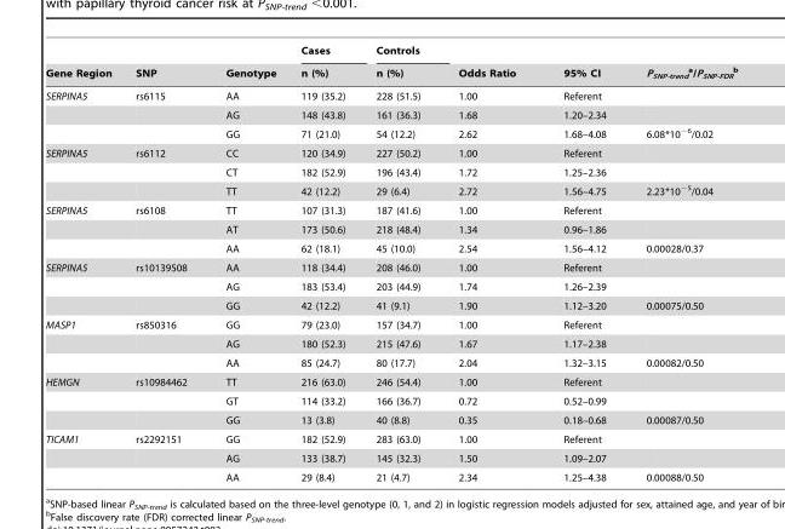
<table><thead><tr><td rowspan="2">Gene Region</td><td rowspan="2">SNP</td><td rowspan="2">Genotype</td><td rowspan="2">Cases n (%)</td><td rowspan="2">Controls n (%)</td><td rowspan="2">Odds Ratio</td><td rowspan="2">95% CI</td><td rowspan="2">P<sub>SNP-trend</sub> a/P<sub>SNP-FDR</sub> b</td></tr><tr></tr></thead><tbody><tr><td rowspan="3">SERPINA5</td><td>rs6115</td><td>AA</td><td>119 (35.2)</td><td>228 (51.5)</td><td>1.00</td><td>Referent</td><td></td></tr><tr><td></td><td>AG</td><td>148 (43.8)</td><td>161 (36.3)</td><td>1.68</td><td>1.20–2.34</td><td></td></tr><tr><td></td><td>GG</td><td>71 (21.0)</td><td>54 (12.2)</td><td>2.62</td><td>1.68–4.08</td><td>6.08*10<sup>−6</sup>/0.02</td></tr><tr><td rowspan="3">SERPINA5</td><td>rs6112</td><td>CC</td><td>120 (34.9)</td><td>227 (50.2)</td><td>1.00</td><td>Referent</td><td></td></tr><tr><td></td><td>CT</td><td>182 (52.9)</td><td>196 (43.4)</td><td>1.72</td><td>1.25–2.36</td><td></td></tr><tr><td></td><td>TT</td><td>42 (12.2)</td><td>29 (6.4)</td><td>2.72</td><td>1.56–4.75</td><td>2.23*10<sup>−5</sup>/0.04</td></tr><tr><td rowspan="3">SERPINA5</td><td>rs6108</td><td>TT</td><td>107 (31.3)</td><td>187 (41.6)</td><td>1.00</td><td>Referent</td><td></td></tr><tr><td></td><td>AT</td><td>173 (50.6)</td><td>218 (48.4)</td><td>1.34</td><td>0.96–1.86</td><td></td></tr><tr><td></td><td>AA</td><td>62 (18.1)</td><td>45 (10.0)</td><td>2.54</td><td>1.56–4.12</td><td>0.00028/0.37</td></tr><tr><td rowspan="3">SERPINA5</td><td>rs10139508</td><td>AA</td><td>118 (34.4)</td><td>208 (46.0)</td><td>1.00</td><td>Referent</td><td></td></tr><tr><td></td><td>AG</td><td>183 (53.4)</td><td>203 (44.9)</td><td>1.74</td><td>1.26–2.39</td><td></td></tr><tr><td></td><td>GG</td><td>42 (12.2)</td><td>41 (9.1)</td><td>1.90</td><td>1.12–3.20</td><td>0.00075/0.50</td></tr><tr><td rowspan="3">MASP1</td><td>rs850316</td><td>GG</td><td>79 (23.0)</td><td>157 (34.7)</td><td>1.00</td><td>Referent</td><td></td></tr><tr><td></td><td>AG</td><td>180 (52.3)</td><td>215 (47.6)</td><td>1.67</td><td>1.17–2.38</td><td></td></tr><tr><td></td><td>AA</td><td>85 (24.7)</td><td>80 (17.7)</td><td>2.04</td><td>1.32–3.15</td><td>0.00082/0.50</td></tr><tr><td rowspan="3">HEMGN</td><td>rs10984462</td><td>TT</td><td>216 (63.0)</td><td>246 (54.4)</td><td>1.00</td><td>Referent</td><td></td></tr><tr><td></td><td>GT</td><td>114 (33.2)</td><td>166 (36.7)</td><td>0.72</td><td>0.52–0.99</td><td></td></tr><tr><td></td><td>GG</td><td>13 (3.8)</td><td>40 (8.8)</td><td>0.35</td><td>0.18–0.68</td><td>0.00087/0.50</td></tr><tr><td rowspan="3">TICAM1</td><td>rs2292151</td><td>GG</td><td>182 (52.9)</td><td>283 (63.0)</td><td>1.00</td><td>Referent</td><td></td></tr><tr><td></td><td>AG</td><td>133 (38.7)</td><td>145 (32.3)</td><td>1.50</td><td>1.09–2.07</td><td></td></tr><tr><td></td><td>AA</td><td>29 (8.4)</td><td>21 (4.7)</td><td>2.34</td><td>1.25–4.38</td><td>0.00088/0.50</td></tr></tbody></table>